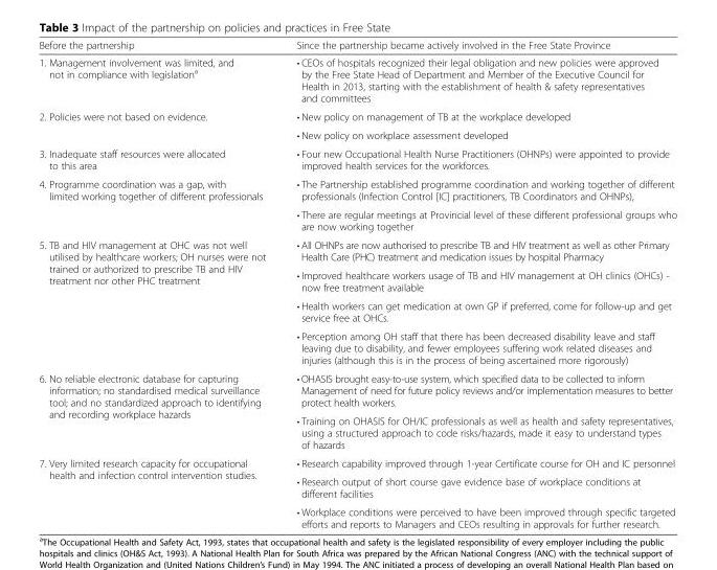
<table><thead><tr><td>Before the partnership</td><td>Since the partnership became actively involved in the Free State Province</td></tr></thead><tbody><tr><td>1. Management involvement was limited, and not in compliance with legislation<sup>a</sup></td><td>• CEOs of hospitals recognized their legal obligation and new policies were approved by the Free State Head of Department and Member of the Executive Council for Health in 2013, starting with the establishment of health &amp; safety representatives and committees</td></tr><tr><td rowspan="2">2. Policies were not based on evidence.</td><td>• New policy on management of TB at the workplace developed</td></tr><tr><td>• New policy on workplace assessment developed</td></tr><tr><td>3. Inadequate staff resources were allocated to this area</td><td>• Four new Occupational Health Nurse Practitioners (OHNPs) were appointed to provide improved health services for the workforces.</td></tr><tr><td rowspan="2">4. Programme coordination was a gap, with limited working together of different professionals</td><td>• The Partnership established programme coordination and working together of different professionals (Infection Control [IC] practitioners, TB Coordinators and OHNPs),</td></tr><tr><td>• There are regular meetings at Provincial level of these different professional groups who are now working together</td></tr><tr><td rowspan="4">5. TB and HIV management at OHC was not well utilised by healthcare workers; OH nurses were not trained or authorized to prescribe TB and HIV treatment nor other PHC treatment</td><td>• All OHNPs are now authorised to prescribe TB and HIV treatment as well as other Primary Health Care (PHC) treatment and medication issues by hospital Pharmacy</td></tr><tr><td>• Improved healthcare workers usage of TB and HIV management at OH clinics (OHCs) - now free treatment available</td></tr><tr><td>• Health workers can get medication at own GP if preferred, come for follow-up and get service free at OHCs.</td></tr><tr><td>• Perception among OH staff that there has been decreased disability leave and staff leaving due to disability, and fewer employees suffering work related diseases and injuries (although this is in the process of being ascertained more rigorously)</td></tr><tr><td rowspan="2">6. No reliable electronic database for capturing information; no standardised medical surveillance tool; and no standardized approach to identifying and recording workplace hazards</td><td>• OHASIS brought easy-to-use system, which specified data to be collected to inform Management of need for future policy reviews and/or implementation measures to better protect health workers.</td></tr><tr><td>• Training on OHASIS for OH/IC professionals as well as health and safety representatives, using a structured approach to code risks/hazards, made it easy to understand types of hazards</td></tr><tr><td rowspan="3">7. Very limited research capacity for occupational health and infection control intervention studies.</td><td>• Research capability improved through 1-year Certificate course for OH and IC personnel</td></tr><tr><td>• Research output of short course gave evidence base of workplace conditions at different facilities</td></tr><tr><td>• Workplace conditions were perceived to have been improved through specific targeted efforts and reports to Managers and CEOs resulting in approvals for further research.</td></tr></tbody></table>